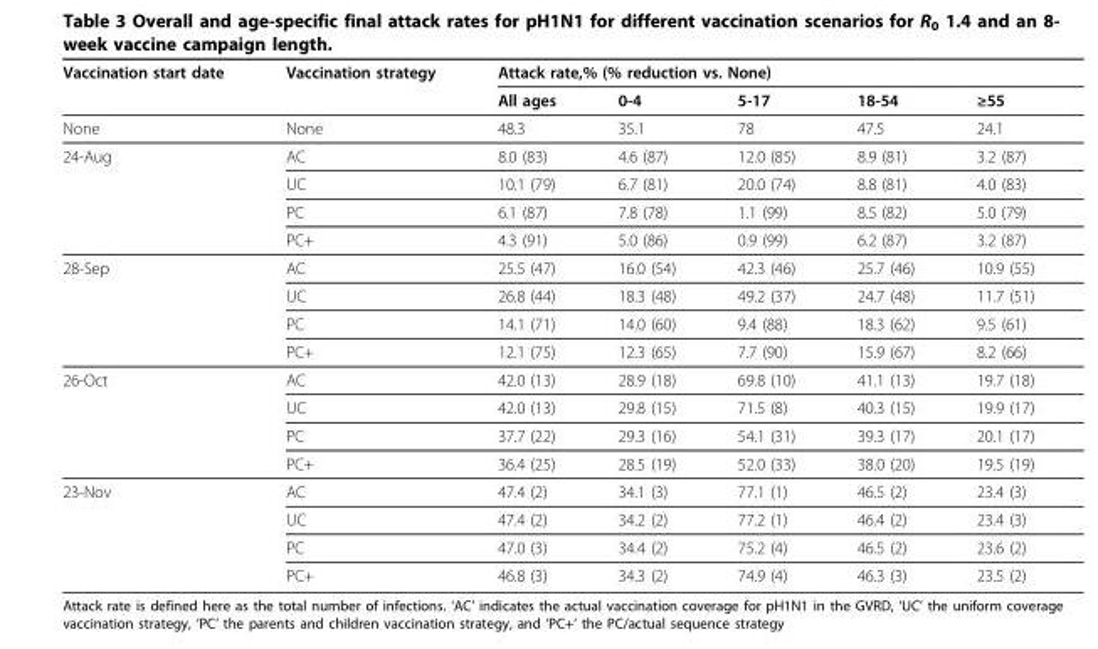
<table><thead><tr><td rowspan="2">Vaccination start date</td><td rowspan="2">Vaccination strategy</td><td colspan="5">Attack rate,% (% reduction vs. None)</td></tr><tr><td>All ages</td><td>0-4</td><td>5-17</td><td>18-54</td><td>≥55</td></tr></thead><tbody><tr><td>None</td><td>None</td><td>48.3</td><td>35.1</td><td>78</td><td>47.5</td><td>24.1</td></tr><tr><td rowspan="4">24-Aug</td><td>AC</td><td>8.0 (83)</td><td>4.6 (87)</td><td>12.0 (85)</td><td>8.9 (81)</td><td>3.2 (87)</td></tr><tr><td>UC</td><td>10.1 (79)</td><td>6.7 (81)</td><td>20.0 (74)</td><td>8.8 (81)</td><td>4.0 (83)</td></tr><tr><td>PC</td><td>6.1 (87)</td><td>7.8 (78)</td><td>1.1 (99)</td><td>8.5 (82)</td><td>5.0 (79)</td></tr><tr><td>PC+</td><td>4.3 (91)</td><td>5.0 (86)</td><td>0.9 (99)</td><td>6.2 (87)</td><td>3.2 (87)</td></tr><tr><td rowspan="4">28-Sep</td><td>AC</td><td>25.5 (47)</td><td>16.0 (54)</td><td>42.3 (46)</td><td>25.7 (46)</td><td>10.9 (55)</td></tr><tr><td>UC</td><td>26.8 (44)</td><td>18.3 (48)</td><td>49.2 (37)</td><td>24.7 (48)</td><td>11.7 (51)</td></tr><tr><td>PC</td><td>14.1 (71)</td><td>14.0 (60)</td><td>9.4 (88)</td><td>18.3 (62)</td><td>9.5 (61)</td></tr><tr><td>PC+</td><td>12.1 (75)</td><td>12.3 (65)</td><td>7.7 (90)</td><td>15.9 (67)</td><td>8.2 (66)</td></tr><tr><td rowspan="4">26-Oct</td><td>AC</td><td>42.0 (13)</td><td>28.9 (18)</td><td>69.8 (10)</td><td>41.1 (13)</td><td>19.7 (18)</td></tr><tr><td>UC</td><td>42.0 (13)</td><td>29.8 (15)</td><td>71.5 (8)</td><td>40.3 (15)</td><td>19.9 (17)</td></tr><tr><td>PC</td><td>37.7 (22)</td><td>29.3 (16)</td><td>54.1 (31)</td><td>39.3 (17)</td><td>20.1 (17)</td></tr><tr><td>PC+</td><td>36.4 (25)</td><td>28.5 (19)</td><td>52.0 (33)</td><td>38.0 (20)</td><td>19.5 (19)</td></tr><tr><td rowspan="4">23-Nov</td><td>AC</td><td>47.4 (2)</td><td>34.1 (3)</td><td>77.1 (1)</td><td>46.5 (2)</td><td>23.4 (3)</td></tr><tr><td>UC</td><td>47.4 (2)</td><td>34.2 (2)</td><td>77.2 (1)</td><td>46.4 (2)</td><td>23.4 (3)</td></tr><tr><td>PC</td><td>47.0 (3)</td><td>34.4 (2)</td><td>75.2 (4)</td><td>46.5 (2)</td><td>23.6 (2)</td></tr><tr><td>PC+</td><td>46.8 (3)</td><td>34.3 (2)</td><td>74.9 (4)</td><td>46.3 (3)</td><td>23.5 (2)</td></tr></tbody></table>